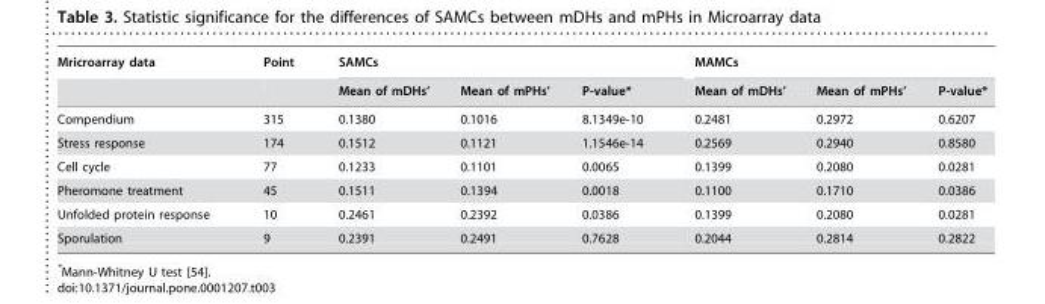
<table><thead><tr><td rowspan="2">Mricroarray data</td><td rowspan="2">Point</td><td colspan="3">SAMCs</td><td colspan="3">MAMCs</td></tr><tr><td>Mean of mDHs’</td><td>Mean of mPHs’</td><td>P-value*</td><td>Mean of mDHs’</td><td>Mean of mPHs’</td><td>P-value*</td></tr></thead><tbody><tr><td>Compendium</td><td>315</td><td>0.1380</td><td>0.1016</td><td>8.1349e-10</td><td>0.2481</td><td>0.2972</td><td>0.6207</td></tr><tr><td>Stress response</td><td>174</td><td>0.1512</td><td>0.1121</td><td>1.1546e-14</td><td>0.2569</td><td>0.2940</td><td>0.8580</td></tr><tr><td>Cell cycle</td><td>77</td><td>0.1233</td><td>0.1101</td><td>0.0065</td><td>0.1399</td><td>0.2080</td><td>0.0281</td></tr><tr><td>Pheromone treatment</td><td>45</td><td>0.1511</td><td>0.1394</td><td>0.0018</td><td>0.1100</td><td>0.1710</td><td>0.0386</td></tr><tr><td>Unfolded protein response</td><td>10</td><td>0.2461</td><td>0.2392</td><td>0.0386</td><td>0.1399</td><td>0.2080</td><td>0.0281</td></tr><tr><td>Sporulation</td><td>9</td><td>0.2391</td><td>0.2491</td><td>0.7628</td><td>0.2044</td><td>0.2814</td><td>0.2822</td></tr></tbody></table>